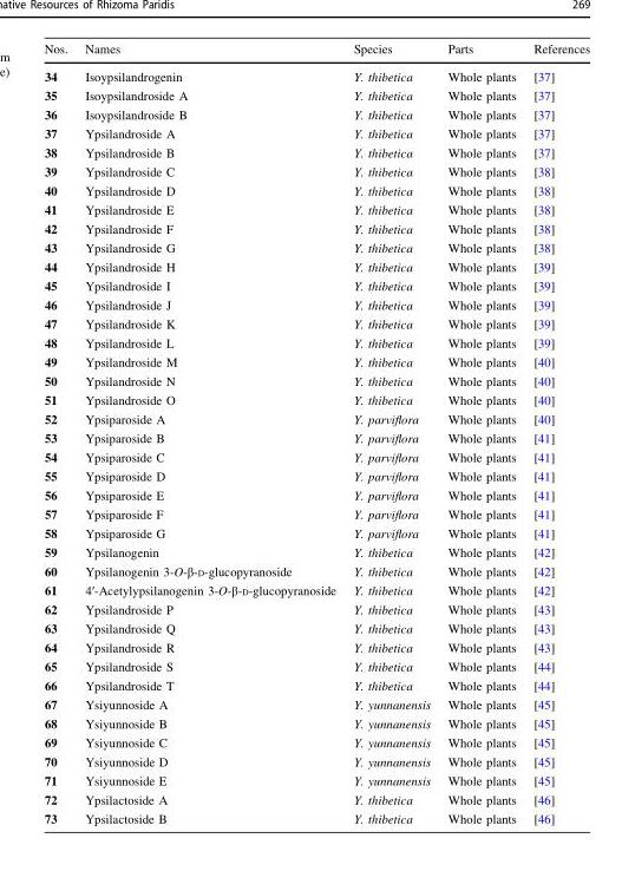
<table><thead><tr><td>Nos.</td><td>Names</td><td>Species</td><td>Parts</td><td>References</td></tr></thead><tbody><tr><td>34</td><td>Isoypsilandrogenin</td><td>Y. thibetica</td><td>Whole plants</td><td>[37]</td></tr><tr><td>35</td><td>Isoypsilandroside A</td><td>Y. thibetica</td><td>Whole plants</td><td>[37]</td></tr><tr><td>36</td><td>Isoypsilandroside B</td><td>Y. thibetica</td><td>Whole plants</td><td>[37]</td></tr><tr><td>37</td><td>Ypsilandroside A</td><td>Y. thibetica</td><td>Whole plants</td><td>[37]</td></tr><tr><td>38</td><td>Ypsilandroside B</td><td>Y. thibetica</td><td>Whole plants</td><td>[37]</td></tr><tr><td>39</td><td>Ypsilandroside C</td><td>Y. thibetica</td><td>Whole plants</td><td>[38]</td></tr><tr><td>40</td><td>Ypsilandroside D</td><td>Y. thibetica</td><td>Whole plants</td><td>[38]</td></tr><tr><td>41</td><td>Ypsilandroside E</td><td>Y. thibetica</td><td>Whole plants</td><td>[38]</td></tr><tr><td>42</td><td>Ypsilandroside F</td><td>Y. thibetica</td><td>Whole plants</td><td>[38]</td></tr><tr><td>43</td><td>Ypsilandroside G</td><td>Y. thibetica</td><td>Whole plants</td><td>[38]</td></tr><tr><td>44</td><td>Ypsilandroside H</td><td>Y. thibetica</td><td>Whole plants</td><td>[39]</td></tr><tr><td>45</td><td>Ypsilandroside I</td><td>Y. thibetica</td><td>Whole plants</td><td>[39]</td></tr><tr><td>46</td><td>Ypsilandroside J</td><td>Y. thibetica</td><td>Whole plants</td><td>[39]</td></tr><tr><td>47</td><td>Ypsilandroside K</td><td>Y. thibetica</td><td>Whole plants</td><td>[39]</td></tr><tr><td>48</td><td>Ypsilandroside L</td><td>Y. thibetica</td><td>Whole plants</td><td>[39]</td></tr><tr><td>49</td><td>Ypsilandroside M</td><td>Y. thibetica</td><td>Whole plants</td><td>[40]</td></tr><tr><td>50</td><td>Ypsilandroside N</td><td>Y. thibetica</td><td>Whole plants</td><td>[40]</td></tr><tr><td>51</td><td>Ypsilandroside O</td><td>Y. thibetica</td><td>Whole plants</td><td>[40]</td></tr><tr><td>52</td><td>Ypsiparoside A</td><td>Y. parviflora</td><td>Whole plants</td><td>[40]</td></tr><tr><td>53</td><td>Ypsiparoside B</td><td>Y. parviflora</td><td>Whole plants</td><td>[41]</td></tr><tr><td>54</td><td>Ypsiparoside C</td><td>Y. parviflora</td><td>Whole plants</td><td>[41]</td></tr><tr><td>55</td><td>Ypsiparoside D</td><td>Y. parviflora</td><td>Whole plants</td><td>[41]</td></tr><tr><td>56</td><td>Ypsiparoside E</td><td>Y. parviflora</td><td>Whole plants</td><td>[41]</td></tr><tr><td>57</td><td>Ypsiparoside F</td><td>Y. parviflora</td><td>Whole plants</td><td>[41]</td></tr><tr><td>58</td><td>Ypsiparoside G</td><td>Y. parviflora</td><td>Whole plants</td><td>[41]</td></tr><tr><td>59</td><td>Ypsilanogenin</td><td>Y. thibetica</td><td>Whole plants</td><td>[42]</td></tr><tr><td>60</td><td>Ypsilanogenin 3-O-β-D-glucopyranoside</td><td>Y. thibetica</td><td>Whole plants</td><td>[42]</td></tr><tr><td>61</td><td>4′-Acetylypsilanogenin 3-O-β-D-glucopyranoside</td><td>Y. thibetica</td><td>Whole plants</td><td>[42]</td></tr><tr><td>62</td><td>Ypsilandroside P</td><td>Y. thibetica</td><td>Whole plants</td><td>[43]</td></tr><tr><td>63</td><td>Ypsilandroside Q</td><td>Y. thibetica</td><td>Whole plants</td><td>[43]</td></tr><tr><td>64</td><td>Ypsilandroside R</td><td>Y. thibetica</td><td>Whole plants</td><td>[43]</td></tr><tr><td>65</td><td>Ypsilandroside S</td><td>Y. thibetica</td><td>Whole plants</td><td>[44]</td></tr><tr><td>66</td><td>Ypsilandroside T</td><td>Y. thibetica</td><td>Whole plants</td><td>[44]</td></tr><tr><td>67</td><td>Ysiyunnoside A</td><td>Y. yunnanensis</td><td>Whole plants</td><td>[45]</td></tr><tr><td>68</td><td>Ysiyunnoside B</td><td>Y. yunnanensis</td><td>Whole plants</td><td>[45]</td></tr><tr><td>69</td><td>Ysiyunnoside C</td><td>Y. yunnanensis</td><td>Whole plants</td><td>[45]</td></tr><tr><td>70</td><td>Ysiyunnoside D</td><td>Y. yunnanensis</td><td>Whole plants</td><td>[45]</td></tr><tr><td>71</td><td>Ysiyunnoside E</td><td>Y. yunnanensis</td><td>Whole plants</td><td>[45]</td></tr><tr><td>72</td><td>Ypsilactoside A</td><td>Y. thibetica</td><td>Whole plants</td><td>[46]</td></tr><tr><td>73</td><td>Ypsilactoside B</td><td>Y. thibetica</td><td>Whole plants</td><td>[46]</td></tr></tbody></table>